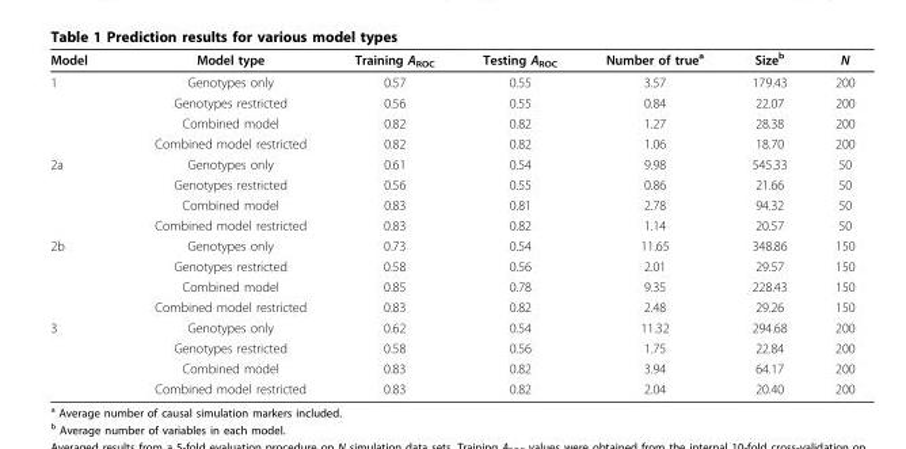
<table><thead><tr><td>Model</td><td>Model type</td><td>Training A<sub>ROC</sub></td><td>Testing A<sub>ROC</sub></td><td>Number of true<sup>a</sup></td><td>Size<sup>b</sup></td><td>N</td></tr></thead><tbody><tr><td rowspan="4">1</td><td>Genotypes only</td><td>0.57</td><td>0.55</td><td>3.57</td><td>179.43</td><td>200</td></tr><tr><td>Genotypes restricted</td><td>0.56</td><td>0.55</td><td>0.84</td><td>22.07</td><td>200</td></tr><tr><td>Combined model</td><td>0.82</td><td>0.82</td><td>1.27</td><td>28.38</td><td>200</td></tr><tr><td>Combined model restricted</td><td>0.82</td><td>0.82</td><td>1.06</td><td>18.70</td><td>200</td></tr><tr><td rowspan="4">2a</td><td>Genotypes only</td><td>0.61</td><td>0.54</td><td>9.98</td><td>545.33</td><td>50</td></tr><tr><td>Genotypes restricted</td><td>0.56</td><td>0.55</td><td>0.86</td><td>21.66</td><td>50</td></tr><tr><td>Combined model</td><td>0.83</td><td>0.81</td><td>2.78</td><td>94.32</td><td>50</td></tr><tr><td>Combined model restricted</td><td>0.83</td><td>0.82</td><td>1.14</td><td>20.57</td><td>50</td></tr><tr><td rowspan="4">2b</td><td>Genotypes only</td><td>0.73</td><td>0.54</td><td>11.65</td><td>348.86</td><td>150</td></tr><tr><td>Genotypes restricted</td><td>0.58</td><td>0.56</td><td>2.01</td><td>29.57</td><td>150</td></tr><tr><td>Combined model</td><td>0.85</td><td>0.78</td><td>9.35</td><td>228.43</td><td>150</td></tr><tr><td>Combined model restricted</td><td>0.83</td><td>0.82</td><td>2.48</td><td>29.26</td><td>150</td></tr><tr><td rowspan="4">3</td><td>Genotypes only</td><td>0.62</td><td>0.54</td><td>11.32</td><td>294.68</td><td>200</td></tr><tr><td>Genotypes restricted</td><td>0.58</td><td>0.56</td><td>1.75</td><td>22.84</td><td>200</td></tr><tr><td>Combined model</td><td>0.83</td><td>0.82</td><td>3.94</td><td>64.17</td><td>200</td></tr><tr><td>Combined model restricted</td><td>0.83</td><td>0.82</td><td>2.04</td><td>20.40</td><td>200</td></tr></tbody></table>